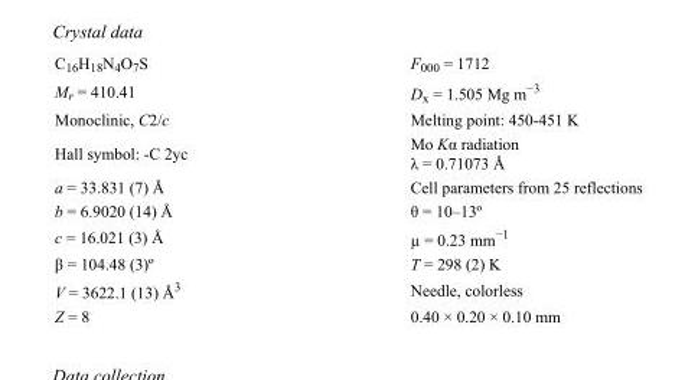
<table><tbody><tr><td>C<sub>16</sub>H<sub>18</sub>N<sub>4</sub>O<sub>7</sub>S</td><td>F<sub>000</sub> = 1712</td></tr><tr><td>M<sub>r</sub> = 410.41</td><td>D<sub>x</sub> = 1.505 Mg m<sup>−3</sup></td></tr><tr><td>Monoclinic, C2/c</td><td>Melting point= 450-451 K</td></tr><tr><td>Hall symbol: -C 2yc</td><td>Mo Kα radiation λ = 0.71073 Å</td></tr><tr><td>a = 33.831 (7) Å</td><td>Cell parameters from 25 reflections</td></tr><tr><td>b = 6.9020 (14) Å</td><td>θ = 10–13º</td></tr><tr><td>c = 16.021 (3) Å</td><td>µ = 0.23 mm<sup>−1</sup></td></tr><tr><td>β = 104.48 (3)º</td><td>T = 298 (2) K</td></tr><tr><td>V = 3622.1 (13) Å<sup>3</sup></td><td>Needle, colorless</td></tr><tr><td>Z = 8</td><td>0.40 × 0.20 × 0.10 mm</td></tr></tbody></table>